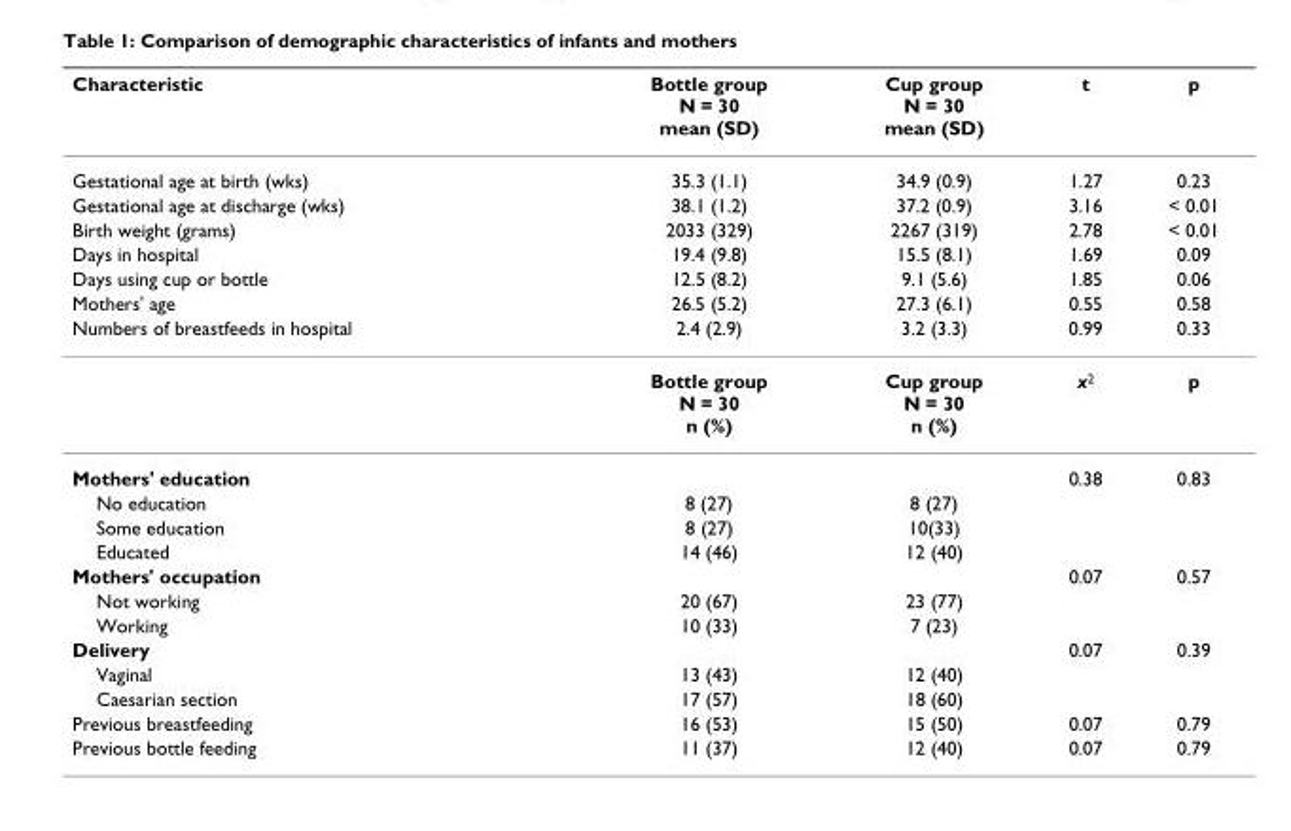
<table><thead><tr><td>Characteristic</td><td>Bottle group N = 30 mean (SD)</td><td>Cup group N = 30 mean (SD)</td><td>t</td><td>p</td></tr></thead><tbody><tr><td>Gestational age at birth (wks)</td><td>35.3 (1.1)</td><td>34.9 (0.9)</td><td>1.27</td><td>0.23</td></tr><tr><td>Gestational age at discharge (wks)</td><td>38.1 (1.2)</td><td>37.2 (0.9)</td><td>3.16</td><td>&lt; 0.01</td></tr><tr><td>Birth weight (grams)</td><td>2033 (329)</td><td>2267 (319)</td><td>2.78</td><td>&lt; 0.01</td></tr><tr><td>Days in hospital</td><td>19.4 (9.8)</td><td>15.5 (8.1)</td><td>1.69</td><td>0.09</td></tr><tr><td>Days using cup or bottle</td><td>12.5 (8.2)</td><td>9.1 (5.6)</td><td>1.85</td><td>0.06</td></tr><tr><td>Mothers&#x27; age</td><td>26.5 (5.2)</td><td>27.3 (6.1)</td><td>0.55</td><td>0.58</td></tr><tr><td rowspan="2">Numbers of breastfeeds in hospital</td><td>2.4 (2.9)</td><td>3.2 (3.3)</td><td>0.99</td><td>0.33</td></tr><tr><td>Bottle group N = 30 n (%)</td><td>Cup group N = 30 n (%)</td><td>x<sup>2</sup></td><td>p</td></tr><tr><td>Mothers&#x27; education</td><td></td><td></td><td>0.38</td><td>0.83</td></tr><tr><td>No education</td><td>8 (27)</td><td>8 (27)</td><td></td><td></td></tr><tr><td>Some education</td><td>8 (27)</td><td>10(33)</td><td></td><td></td></tr><tr><td>Educated</td><td>14 (46)</td><td>12 (40)</td><td></td><td></td></tr><tr><td>Mothers&#x27; occupation</td><td></td><td></td><td>0.07</td><td>0.57</td></tr><tr><td>Not working</td><td>20 (67)</td><td>23 (77)</td><td></td><td></td></tr><tr><td>Working</td><td>10 (33)</td><td>7 (23)</td><td></td><td></td></tr><tr><td>Delivery</td><td></td><td></td><td>0.07</td><td>0.39</td></tr><tr><td>Vaginal</td><td>13 (43)</td><td>12 (40)</td><td></td><td></td></tr><tr><td>Caesarian section</td><td>17 (57)</td><td>18 (60)</td><td></td><td></td></tr><tr><td>Previous breastfeeding</td><td>16 (53)</td><td>15 (50)</td><td>0.07</td><td>0.79</td></tr><tr><td>Previous bottle feeding</td><td>11 (37)</td><td>12 (40)</td><td>0.07</td><td>0.79</td></tr></tbody></table>